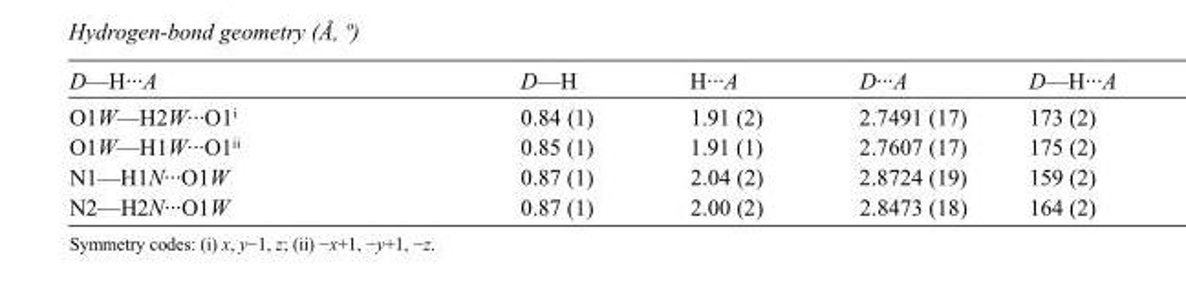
<table><tbody><tr><td>D—H···A</td><td>D—H</td><td>H···A</td><td>D···A</td><td>D—H···A</td></tr><tr><td>O1W—H2W···O1<sup>i</sup></td><td>0.84 (1)</td><td>1.91 (2)</td><td>2.7491 (17)</td><td>173 (2)</td></tr><tr><td>O1W—H1W···O1<sup>ii</sup></td><td>0.85 (1)</td><td>1.91 (1)</td><td>2.7607 (17)</td><td>175 (2)</td></tr><tr><td>N1—H1N···O1W</td><td>0.87 (1)</td><td>2.04 (2)</td><td>2.8724 (19)</td><td>159 (2)</td></tr><tr><td>N2—H2N···O1W</td><td>0.87 (1)</td><td>2.00 (2)</td><td>2.8473 (18)</td><td>164 (2)</td></tr></tbody></table>